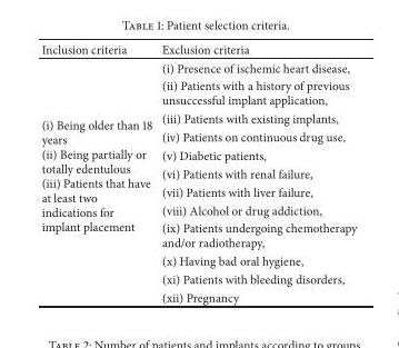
<table><thead><tr><td>Inclusion criteria</td><td>Exclusion criteria</td></tr></thead><tbody><tr><td rowspan="12">(i) Being older than 18 years (ii) Being partially or totally edentulous (iii) Patients that have at least two indications for implant placement</td><td>(i) Presence of ischemic heart disease,</td></tr><tr><td>(ii) Patients with a history of previous unsuccessful implant application,</td></tr><tr><td>(iii) Patients with existing implants,</td></tr><tr><td>(iv) Patients on continuous drug use,</td></tr><tr><td>(v) Diabetic patients,</td></tr><tr><td>(vi) Patients with renal failure,</td></tr><tr><td>(vii) Patients with liver failure,</td></tr><tr><td>(viii) Alcohol or drug addiction,</td></tr><tr><td>(ix) Patients undergoing chemotherapy and/or radiotherapy,</td></tr><tr><td>(x) Having bad oral hygiene,</td></tr><tr><td>(xi) Patients with bleeding disorders,</td></tr><tr><td>(xii) Pregnancy</td></tr></tbody></table>